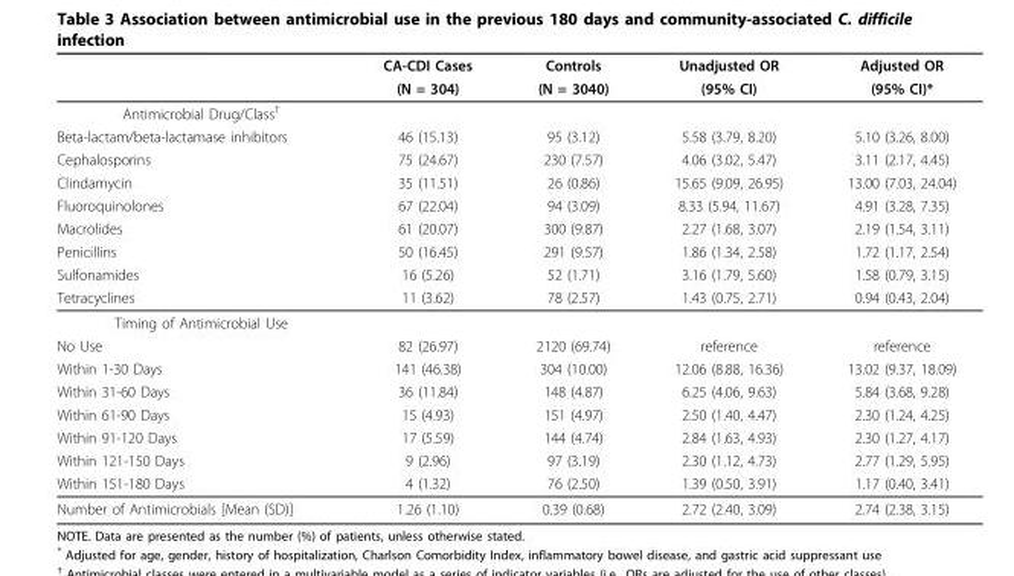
<table><thead><tr><td rowspan="2"></td><td rowspan="2">CA-CDI Cases (N = 304)</td><td rowspan="2">Controls (N = 3040)</td><td rowspan="2">Unadjusted OR (95% CI)</td><td rowspan="2">Adjusted OR (95% CI)*</td></tr><tr></tr></thead><tbody><tr><td colspan="5">Antimicrobial Drug/Class<sup>†</sup></td></tr><tr><td>Beta-lactam/beta-lactamase inhibitors</td><td>46 (15.13)</td><td>95 (3.12)</td><td>5.58 (3.79, 8.20)</td><td>5.10 (3.26, 8.00)</td></tr><tr><td>Cephalosporins</td><td>75 (24.67)</td><td>230 (7.57)</td><td>4.06 (3.02, 5.47)</td><td>3.11 (2.17, 4.45)</td></tr><tr><td>Clindamycin</td><td>35 (11.51)</td><td>26 (0.86)</td><td>15.65 (9.09, 26.95)</td><td>13.00 (7.03, 24.04)</td></tr><tr><td>Fluoroquinolones</td><td>67 (22.04)</td><td>94 (3.09)</td><td>8.33 (5.94, 11.67)</td><td>4.91 (3.28, 7.35)</td></tr><tr><td>Macrolides</td><td>61 (20.07)</td><td>300 (9.87)</td><td>2.27 (1.68, 3.07)</td><td>2.19 (1.54, 3.11)</td></tr><tr><td>Penicillins</td><td>50 (16.45)</td><td>291 (9.57)</td><td>1.86 (1.34, 2.58)</td><td>1.72 (1.17, 2.54)</td></tr><tr><td>Sulfonamides</td><td>16 (5.26)</td><td>52 (1.71)</td><td>3.16 (1.79, 5.60)</td><td>1.58 (0.79, 3.15)</td></tr><tr><td>Tetracyclines</td><td>11 (3.62)</td><td>78 (2.57)</td><td>1.43 (0.75, 2.71)</td><td>0.94 (0.43, 2.04)</td></tr><tr><td colspan="5">Timing of Antimicrobial Use</td></tr><tr><td>No Use</td><td>82 (26.97)</td><td>2120 (69.74)</td><td>reference</td><td>reference</td></tr><tr><td>Within 1-30 Days</td><td>141 (46.38)</td><td>304 (10.00)</td><td>12.06 (8.88, 16.36)</td><td>13.02 (9.37, 18.09)</td></tr><tr><td>Within 31-60 Days</td><td>36 (11.84)</td><td>148 (4.87)</td><td>6.25 (4.06, 9.63)</td><td>5.84 (3.68, 9.28)</td></tr><tr><td>Within 61-90 Days</td><td>15 (4.93)</td><td>151 (4.97)</td><td>2.50 (1.40, 4.47)</td><td>2.30 (1.24, 4.25)</td></tr><tr><td>Within 91-120 Days</td><td>17 (5.59)</td><td>144 (4.74)</td><td>2.84 (1.63, 4.93)</td><td>2.30 (1.27, 4.17)</td></tr><tr><td>Within 121-150 Days</td><td>9 (2.96)</td><td>97 (3.19)</td><td>2.30 (1.12, 4.73)</td><td>2.77 (1.29, 5.95)</td></tr><tr><td>Within 151-180 Days</td><td>4 (1.32)</td><td>76 (2.50)</td><td>1.39 (0.50, 3.91)</td><td>1.17 (0.40, 3.41)</td></tr><tr><td>Number of Antimicrobials [Mean (SD)]</td><td>1.26 (1.10)</td><td>0.39 (0.68)</td><td>2.72 (2.40, 3.09)</td><td>2.74 (2.38, 3.15)</td></tr></tbody></table>